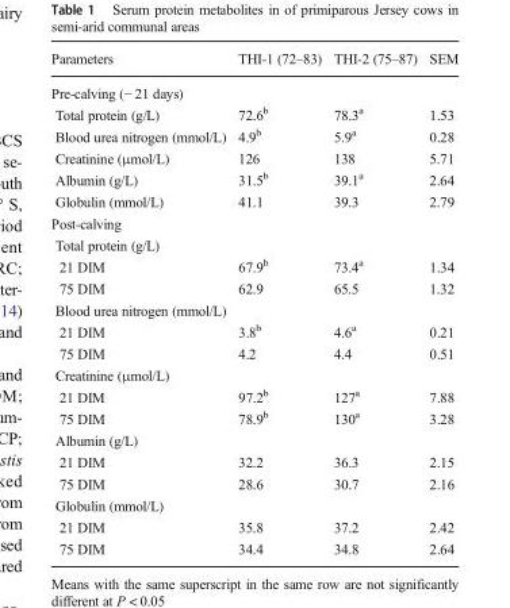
<table><thead><tr><td>Parameters</td><td>THI-1 (72–83)</td><td>THI-2 (75–87)</td><td>SEM</td></tr></thead><tbody><tr><td colspan="4">Pre-calving (− 21 days)</td></tr><tr><td>Total protein (g/L)</td><td>72.6<sup>b</sup></td><td>78.3<sup>a</sup></td><td>1.53</td></tr><tr><td>Blood urea nitrogen (mmol/L)</td><td>4.9<sup>b</sup></td><td>5.9<sup>a</sup></td><td>0.28</td></tr><tr><td>Creatinine (μmol/L)</td><td>126</td><td>138</td><td>5.71</td></tr><tr><td>Albumin (g/L)</td><td>31.5<sup>b</sup></td><td>39.1<sup>a</sup></td><td>2.64</td></tr><tr><td>Globulin (mmol/L)</td><td>41.1</td><td>39.3</td><td>2.79</td></tr><tr><td colspan="4">Post-calving</td></tr><tr><td colspan="4">Total protein (g/L)</td></tr><tr><td>21 DIM</td><td>67.9<sup>b</sup></td><td>73.4<sup>a</sup></td><td>1.34</td></tr><tr><td>75 DIM</td><td>62.9</td><td>65.5</td><td>1.32</td></tr><tr><td colspan="4">Blood urea nitrogen (mmol/L)</td></tr><tr><td>21 DIM</td><td>3.8<sup>b</sup></td><td>4.6<sup>a</sup></td><td>0.21</td></tr><tr><td>75 DIM</td><td>4.2</td><td>4.4</td><td>0.51</td></tr><tr><td colspan="4">Creatinine (μmol/L)</td></tr><tr><td>21 DIM</td><td>97.2<sup>b</sup></td><td>127<sup>a</sup></td><td>7.88</td></tr><tr><td>75 DIM</td><td>78.9<sup>b</sup></td><td>130<sup>a</sup></td><td>3.28</td></tr><tr><td colspan="4">Albumin (g/L)</td></tr><tr><td>21 DIM</td><td>32.2</td><td>36.3</td><td>2.15</td></tr><tr><td>75 DIM</td><td>28.6</td><td>30.7</td><td>2.16</td></tr><tr><td colspan="4">Globulin (mmol/L)</td></tr><tr><td>21 DIM</td><td>35.8</td><td>37.2</td><td>2.42</td></tr><tr><td>75 DIM</td><td>34.4</td><td>34.8</td><td>2.64</td></tr></tbody></table>